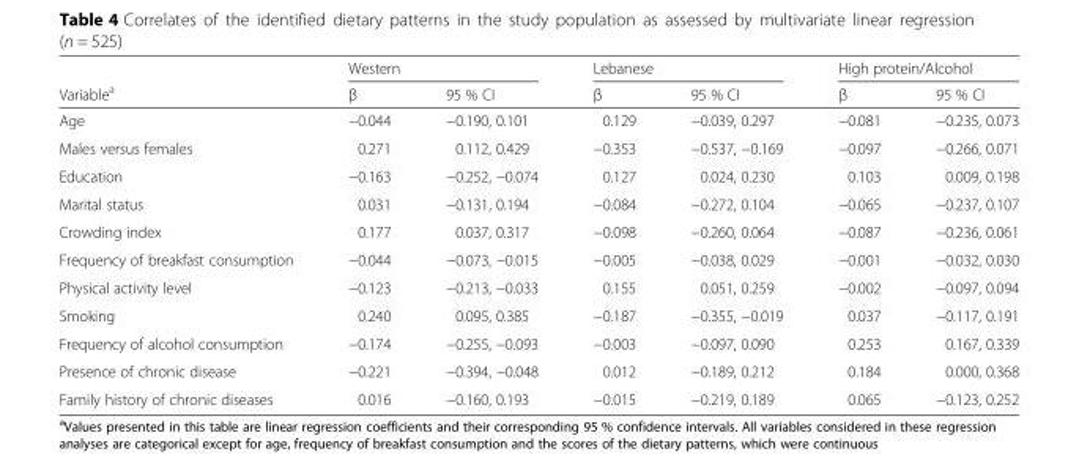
<table><thead><tr><td rowspan="2">Variable<sup>a</sup></td><td colspan="2">Western</td><td colspan="2">Lebanese</td><td colspan="2">High protein/Alcohol</td></tr><tr><td>β</td><td>95 % CI</td><td>β</td><td>95 % CI</td><td>β</td><td>95 % CI</td></tr></thead><tbody><tr><td>Age</td><td>−0.044</td><td>−0.190, 0.101</td><td>0.129</td><td>−0.039, 0.297</td><td>−0.081</td><td>−0.235, 0.073</td></tr><tr><td>Males versus females</td><td>0.271</td><td>0.112, 0.429</td><td>−0.353</td><td>−0.537, −0.169</td><td>−0.097</td><td>−0.266, 0.071</td></tr><tr><td>Education</td><td>−0.163</td><td>−0.252, −0.074</td><td>0.127</td><td>0.024, 0.230</td><td>0.103</td><td>0.009, 0.198</td></tr><tr><td>Marital status</td><td>0.031</td><td>−0.131, 0.194</td><td>−0.084</td><td>−0.272, 0.104</td><td>−0.065</td><td>−0.237, 0.107</td></tr><tr><td>Crowding index</td><td>0.177</td><td>0.037, 0.317</td><td>−0.098</td><td>−0.260, 0.064</td><td>−0.087</td><td>−0.236, 0.061</td></tr><tr><td>Frequency of breakfast consumption</td><td>−0.044</td><td>−0.073, −0.015</td><td>−0.005</td><td>−0.038, 0.029</td><td>−0.001</td><td>−0.032, 0.030</td></tr><tr><td>Physical activity level</td><td>−0.123</td><td>−0.213, −0.033</td><td>0.155</td><td>0.051, 0.259</td><td>−0.002</td><td>−0.097, 0.094</td></tr><tr><td>Smoking</td><td>0.240</td><td>0.095, 0.385</td><td>−0.187</td><td>−0.355, −0.019</td><td>0.037</td><td>−0.117, 0.191</td></tr><tr><td>Frequency of alcohol consumption</td><td>−0.174</td><td>−0.255, −0.093</td><td>−0.003</td><td>−0.097, 0.090</td><td>0.253</td><td>0.167, 0.339</td></tr><tr><td>Presence of chronic disease</td><td>−0.221</td><td>−0.394, −0.048</td><td>0.012</td><td>−0.189, 0.212</td><td>0.184</td><td>0.000, 0.368</td></tr><tr><td>Family history of chronic diseases</td><td>0.016</td><td>−0.160, 0.193</td><td>−0.015</td><td>−0.219, 0.189</td><td>0.065</td><td>−0.123, 0.252</td></tr></tbody></table>